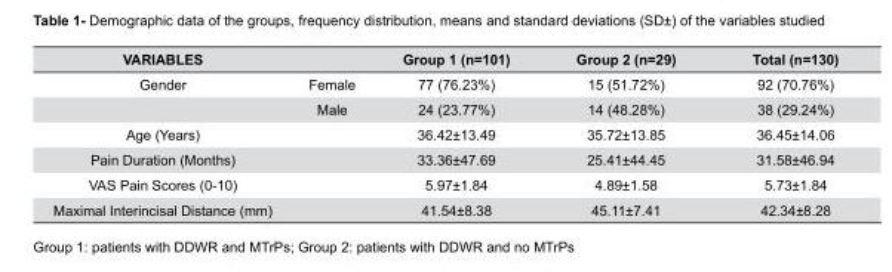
<table><thead><tr><td>VARIABLES</td><td></td><td>Group 1 (n=101)</td><td>Group 2 (n=29)</td><td>Total (n=130)</td></tr></thead><tbody><tr><td rowspan="2">Gender</td><td>Female</td><td>77 (76.23%)</td><td>15 (51.72%)</td><td>92 (70.76%)</td></tr><tr><td>Male</td><td>24 (23.77%)</td><td>14 (48.28%)</td><td>38 (29.24%)</td></tr><tr><td>Age (Years)</td><td></td><td>36.42±13.49</td><td>35.72±13.85</td><td>36.45±14.06</td></tr><tr><td>Pain Duration (Months)</td><td></td><td>33.36±47.69</td><td>25.41±44.45</td><td>31.58±46.94</td></tr><tr><td>VAS Pain Scores (0-10)</td><td></td><td>5.97±1.84</td><td>4.89±1.58</td><td>5.73±1.84</td></tr><tr><td>Maximal Interincisal Distance (mm)</td><td></td><td>41.54±8.38</td><td>45.11±7.41</td><td>42.34±8.28</td></tr></tbody></table>